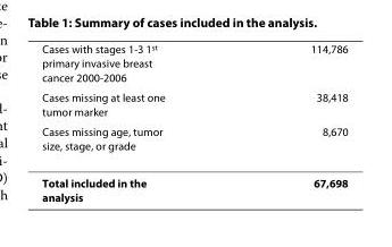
<table><thead><tr><td rowspan="3">Cases with stages 1-3 1<sup>st</sup> primary invasive breast cancer 2000-2006 Cases missing at least one tumor marker Cases missing age, tumor size, stage, or grade</td><td rowspan="3">114,786 38,418 8,670</td></tr><tr></tr><tr></tr></thead><tbody><tr><td>Total included in the analysis</td><td>67,698</td></tr></tbody></table>